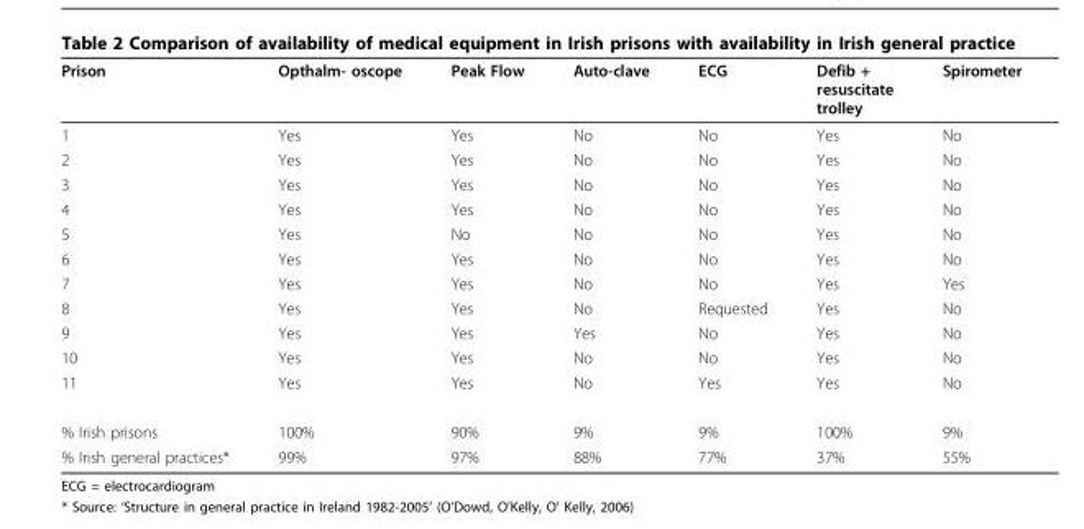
<table><thead><tr><td>Prison</td><td>Opthalm- oscope</td><td>Peak Flow</td><td>Auto-clave</td><td>ECG</td><td>Defib + resuscitate trolley</td><td>Spirometer</td></tr></thead><tbody><tr><td>1</td><td>Yes</td><td>Yes</td><td>No</td><td>No</td><td>Yes</td><td>No</td></tr><tr><td>2</td><td>Yes</td><td>Yes</td><td>No</td><td>No</td><td>Yes</td><td>No</td></tr><tr><td>3</td><td>Yes</td><td>Yes</td><td>No</td><td>No</td><td>Yes</td><td>No</td></tr><tr><td>4</td><td>Yes</td><td>Yes</td><td>No</td><td>No</td><td>Yes</td><td>No</td></tr><tr><td>5</td><td>Yes</td><td>No</td><td>No</td><td>No</td><td>Yes</td><td>No</td></tr><tr><td>6</td><td>Yes</td><td>Yes</td><td>No</td><td>No</td><td>Yes</td><td>No</td></tr><tr><td>7</td><td>Yes</td><td>Yes</td><td>No</td><td>No</td><td>Yes</td><td>Yes</td></tr><tr><td>8</td><td>Yes</td><td>Yes</td><td>No</td><td>Requested</td><td>Yes</td><td>No</td></tr><tr><td>9</td><td>Yes</td><td>Yes</td><td>Yes</td><td>No</td><td>Yes</td><td>No</td></tr><tr><td>10</td><td>Yes</td><td>Yes</td><td>No</td><td>No</td><td>Yes</td><td>No</td></tr><tr><td>11</td><td>Yes</td><td>Yes</td><td>No</td><td>Yes</td><td>Yes</td><td>No</td></tr><tr><td>% Irish prisons</td><td>100%</td><td>90%</td><td>9%</td><td>9%</td><td>100%</td><td>9%</td></tr><tr><td>% Irish general practices*</td><td>99%</td><td>97%</td><td>88%</td><td>77%</td><td>37%</td><td>55%</td></tr></tbody></table>